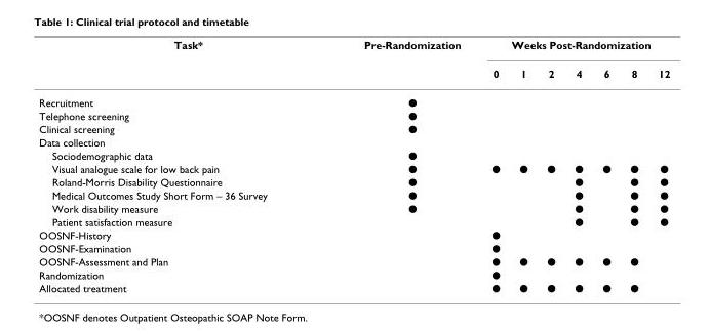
<table><thead><tr><td rowspan="2">Task*</td><td rowspan="2">Pre-Randomization</td><td colspan="7">Weeks Post-Randomization</td></tr><tr><td>0</td><td>1</td><td>2</td><td>4</td><td>6</td><td>8</td><td>12</td></tr></thead><tbody><tr><td>Recruitment</td><td>●</td><td></td><td></td><td></td><td></td><td></td><td></td><td></td></tr><tr><td>Telephone screening</td><td>●</td><td></td><td></td><td></td><td></td><td></td><td></td><td></td></tr><tr><td>Clinical screening</td><td>●</td><td></td><td></td><td></td><td></td><td></td><td></td><td></td></tr><tr><td colspan="9">Data collection</td></tr><tr><td>Sociodemographic data</td><td>●</td><td></td><td></td><td></td><td></td><td></td><td></td><td></td></tr><tr><td>Visual analogue scale for low back pain</td><td>●</td><td>●</td><td>●</td><td>●</td><td>●</td><td>●</td><td>●</td><td>●</td></tr><tr><td>Roland-Morris Disability Questionnaire</td><td>●</td><td></td><td></td><td></td><td>●</td><td></td><td>●</td><td>●</td></tr><tr><td>Medical Outcomes Study Short Form – 36 Survey</td><td>●</td><td></td><td></td><td></td><td>●</td><td></td><td>●</td><td>●</td></tr><tr><td>Work disability measure</td><td>●</td><td></td><td></td><td></td><td>●</td><td></td><td>●</td><td>●</td></tr><tr><td>Patient satisfaction measure</td><td></td><td></td><td></td><td></td><td>●</td><td></td><td>●</td><td>●</td></tr><tr><td>OOSNF-History</td><td></td><td>●</td><td></td><td></td><td></td><td></td><td></td><td></td></tr><tr><td>OOSNF-Examination</td><td></td><td>●</td><td></td><td></td><td></td><td></td><td></td><td></td></tr><tr><td>OOSNF-Assessment and Plan</td><td></td><td>●</td><td>●</td><td>●</td><td>●</td><td>●</td><td>●</td><td></td></tr><tr><td>Randomization</td><td></td><td>●</td><td></td><td></td><td></td><td></td><td></td><td></td></tr><tr><td>Allocated treatment</td><td></td><td>●</td><td>●</td><td>●</td><td>●</td><td>●</td><td>●</td><td></td></tr></tbody></table>